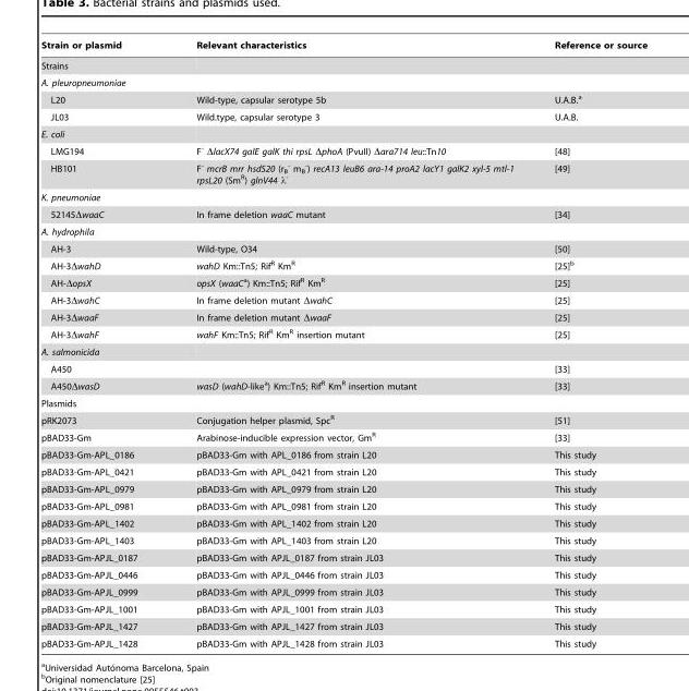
<table><thead><tr><td>Strain or plasmid</td><td>Relevant characteristics</td><td>Reference or source</td></tr></thead><tbody><tr><td colspan="3">Strains</td></tr><tr><td colspan="3">A. pleuropneumoniae</td></tr><tr><td>L20</td><td>Wild-type, capsular serotype 5b</td><td>U.A.B.<sup>a</sup></td></tr><tr><td>JL03</td><td>Wild.type, capsular serotype 3</td><td>U.A.B.</td></tr><tr><td colspan="3">E. coli</td></tr><tr><td>LMG194</td><td>F<sup>-</sup> ΔlacX74 galE galK thi rpsL ΔphoA (PvuII) Δara714 leu::Tn10</td><td>[48]</td></tr><tr><td>HB101</td><td>F<sup>-</sup> mcrB mrr hsdS20 (r<sub>B</sub> <sup>-</sup> m<sub>B</sub> <sup>-</sup>) recA13 leuB6 ara-14 proA2 lacY1 galK2 xyl-5 mtl-1 rpsL20 (Sm<sup>R</sup>) glnV44 λ<sup>-</sup></td><td>[49]</td></tr><tr><td colspan="3">K. pneumoniae</td></tr><tr><td>52145ΔwaaC</td><td>In frame deletion waaC mutant</td><td>[34]</td></tr><tr><td colspan="3">A. hydrophila</td></tr><tr><td>AH-3</td><td>Wild-type, O34</td><td>[50]</td></tr><tr><td>AH-3ΔwahD</td><td>wahD Km::Tn5; Rif<sup>R</sup> Km<sup>R</sup></td><td>[25]b</td></tr><tr><td>AH-ΔopsX</td><td>opsX (waaCa) Km::Tn5; Rif<sup>R</sup> Km<sup>R</sup></td><td>[25]</td></tr><tr><td>AH-3ΔwahC</td><td>In frame deletion mutant ΔwahC</td><td>[25]</td></tr><tr><td>AH-3ΔwaaF</td><td>In frame deletion mutant ΔwaaF</td><td>[25]</td></tr><tr><td>AH-3ΔwahF</td><td>wahF Km::Tn5; Rif<sup>R</sup> Km<sup>R</sup> insertion mutant</td><td>[25]</td></tr><tr><td colspan="3">A. salmonicida</td></tr><tr><td>A450</td><td></td><td>[33]</td></tr><tr><td>A450ΔwasD</td><td>wasD (wahD-like<sup>a</sup>) Km::Tn5; Rif<sup>R</sup> Km<sup>R</sup> insertion mutant</td><td>[33]</td></tr><tr><td colspan="3">Plasmids</td></tr><tr><td>pRK2073</td><td>Conjugation helper plasmid, Spc<sup>R</sup></td><td>[51]</td></tr><tr><td>pBAD33-Gm</td><td>Arabinose-inducible expression vector, Gm<sup>R</sup></td><td>[33]</td></tr><tr><td>pBAD33-Gm-APL_0186</td><td>pBAD33-Gm with APL_0186 from strain L20</td><td>This study</td></tr><tr><td>pBAD33-Gm-APL_0421</td><td>pBAD33-Gm with APL_0421 from strain L20</td><td>This study</td></tr><tr><td>pBAD33-Gm-APL_0979</td><td>pBAD33-Gm with APL_0979 from strain L20</td><td>This study</td></tr><tr><td>pBAD33-Gm-APL_0981</td><td>pBAD33-Gm with APL_0981 from strain L20</td><td>This study</td></tr><tr><td>pBAD33-Gm-APL_1402</td><td>pBAD33-Gm with APL_1402 from strain L20</td><td>This study</td></tr><tr><td>pBAD33-Gm-APL_1403</td><td>pBAD33-Gm with APL_1403 from strain L20</td><td>This study</td></tr><tr><td>pBAD33-Gm-APJL_0187</td><td>pBAD33-Gm with APJL_0187 from strain JL03</td><td>This study</td></tr><tr><td>pBAD33-Gm-APJL_0446</td><td>pBAD33-Gm with APJL_0446 from strain JL03</td><td>This study</td></tr><tr><td>pBAD33-Gm-APJL_0999</td><td>pBAD33-Gm with APJL_0999 from strain JL03</td><td>This study</td></tr><tr><td>pBAD33-Gm-APJL_1001</td><td>pBAD33-Gm with APJL_1001 from strain JL03</td><td>This study</td></tr><tr><td>pBAD33-Gm-APJL_1427</td><td>pBAD33-Gm with APJL_1427 from strain JL03</td><td>This study</td></tr><tr><td>pBAD33-Gm-APJL_1428</td><td>pBAD33-Gm with APJL_1428 from strain JL03</td><td>This study</td></tr></tbody></table>